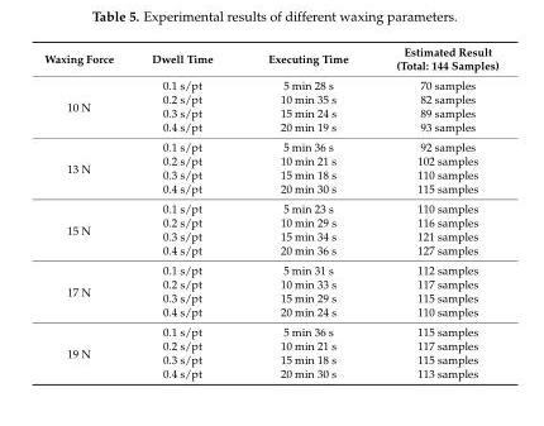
<table><thead><tr><td>Waxing Force</td><td>Dwell Time</td><td>Executing Time</td><td>Estimated Result (Total: 144 Samples)</td></tr></thead><tbody><tr><td rowspan="4">10 N</td><td>0.1 s/pt</td><td>5 min 28 s</td><td>70 samples</td></tr><tr><td>0.2 s/pt</td><td>10 min 35 s</td><td>82 samples</td></tr><tr><td>0.3 s/pt</td><td>15 min 24 s</td><td>89 samples</td></tr><tr><td>0.4 s/pt</td><td>20 min 19 s</td><td>93 samples</td></tr><tr><td rowspan="4">13 N</td><td>0.1 s/pt</td><td>5 min 36 s</td><td>92 samples</td></tr><tr><td>0.2 s/pt</td><td>10 min 21 s</td><td>102 samples</td></tr><tr><td>0.3 s/pt</td><td>15 min 18 s</td><td>110 samples</td></tr><tr><td>0.4 s/pt</td><td>20 min 30 s</td><td>115 samples</td></tr><tr><td rowspan="4">15 N</td><td>0.1 s/pt</td><td>5 min 23 s</td><td>110 samples</td></tr><tr><td>0.2 s/pt</td><td>10 min 29 s</td><td>116 samples</td></tr><tr><td>0.3 s/pt</td><td>15 min 34 s</td><td>121 samples</td></tr><tr><td>0.4 s/pt</td><td>20 min 36 s</td><td>127 samples</td></tr><tr><td rowspan="4">17 N</td><td>0.1 s/pt</td><td>5 min 31 s</td><td>112 samples</td></tr><tr><td>0.2 s/pt</td><td>10 min 33 s</td><td>117 samples</td></tr><tr><td>0.3 s/pt</td><td>15 min 29 s</td><td>115 samples</td></tr><tr><td>0.4 s/pt</td><td>20 min 24 s</td><td>110 samples</td></tr><tr><td rowspan="4">19 N</td><td>0.1 s/pt</td><td>5 min 36 s</td><td>115 samples</td></tr><tr><td>0.2 s/pt</td><td>10 min 21 s</td><td>117 samples</td></tr><tr><td>0.3 s/pt</td><td>15 min 18 s</td><td>115 samples</td></tr><tr><td>0.4 s/pt</td><td>20 min 30 s</td><td>113 samples</td></tr></tbody></table>